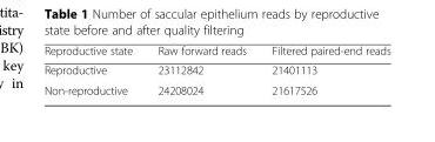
<table><thead><tr><td>Reproductive state</td><td>Raw forward reads</td><td>Filtered paired-end reads</td></tr></thead><tbody><tr><td>Reproductive</td><td>23112842</td><td>21401113</td></tr><tr><td>Non-reproductive</td><td>24208024</td><td>21617526</td></tr></tbody></table>